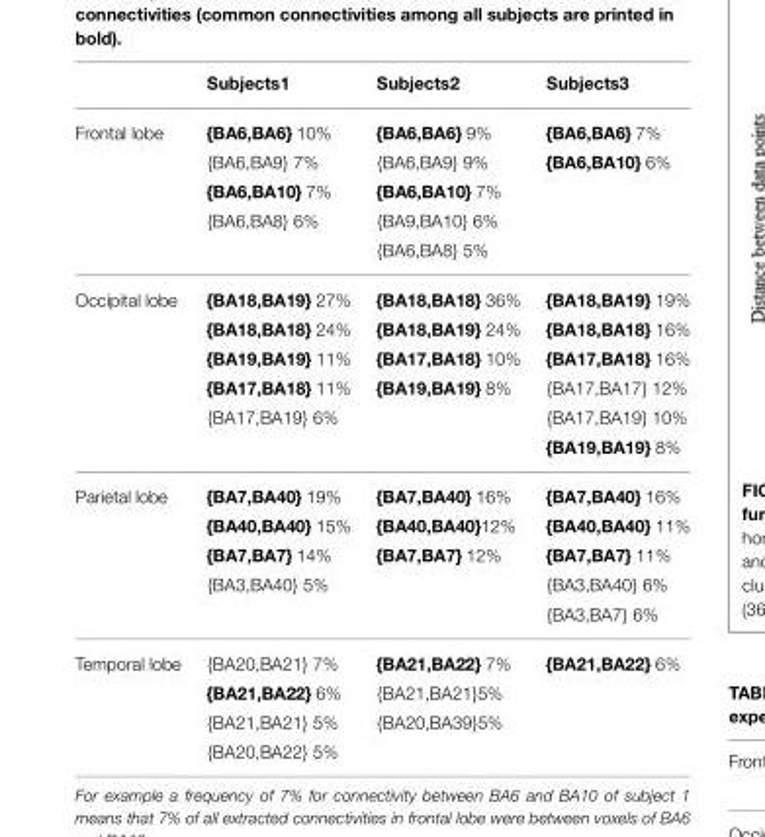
<table><thead><tr><td></td><td>Subjects1</td><td>Subjects2</td><td>Subjects3</td></tr></thead><tbody><tr><td rowspan="5">Frontal lobe</td><td>{BA6,BA6} 10%</td><td>{BA6,BA6} 9%</td><td>{BA6,BA6} 7%</td></tr><tr><td>{BA6,BA9} 7%</td><td>{BA6,BA9} 9%</td><td>{BA6,BA10} 6%</td></tr><tr><td>{BA6,BA10} 7%</td><td>{BA6,BA10} 7%</td><td></td></tr><tr><td>{BA6,BA8} 6%</td><td>{BA9,BA10} 6%</td><td></td></tr><tr><td></td><td>{BA6,BA8} 5%</td><td></td></tr><tr><td rowspan="6">Occipital lobe</td><td>{BA18,BA19} 27%</td><td>{BA18,BA18} 36%</td><td>{BA18,BA19} 19%</td></tr><tr><td>{BA18,BA18} 24%</td><td>{BA18,BA19} 24%</td><td>{BA18,BA18} 16%</td></tr><tr><td>{BA19,BA19} 11%</td><td>{BA17,BA18} 10%</td><td>{BA17,BA18} 16%</td></tr><tr><td>{BA17,BA18} 11%</td><td>{BA19,BA19} 8%</td><td>{BA17,BA17} 12%</td></tr><tr><td>{BA17,BA19} 6%</td><td></td><td>{BA17,BA19} 10%</td></tr><tr><td></td><td></td><td>{BA19,BA19} 8%</td></tr><tr><td rowspan="5">Parietal lobe</td><td>{BA7,BA40} 19%</td><td>{BA7,BA40} 16%</td><td>{BA7,BA40} 16%</td></tr><tr><td>{BA40,BA40} 15%</td><td>{BA40,BA40}12%</td><td>{BA40,BA40} 11%</td></tr><tr><td>{BA7,BA7} 14%</td><td>{BA7,BA7} 12%</td><td>{BA7,BA7} 11%</td></tr><tr><td>{BA3,BA40} 5%</td><td></td><td>{BA3,BA40} 6%</td></tr><tr><td></td><td></td><td>{BA3,BA7} 6%</td></tr><tr><td rowspan="4">Temporal lobe</td><td>{BA20,BA21} 7%</td><td>{BA21,BA22} 7%</td><td>{BA21,BA22} 6%</td></tr><tr><td>{BA21,BA22} 6%</td><td>{BA21,BA21}5%</td><td></td></tr><tr><td>{BA21,BA21} 5%</td><td>{BA20,BA39}5%</td><td></td></tr><tr><td>{BA20,BA22} 5%</td><td></td><td></td></tr></tbody></table>